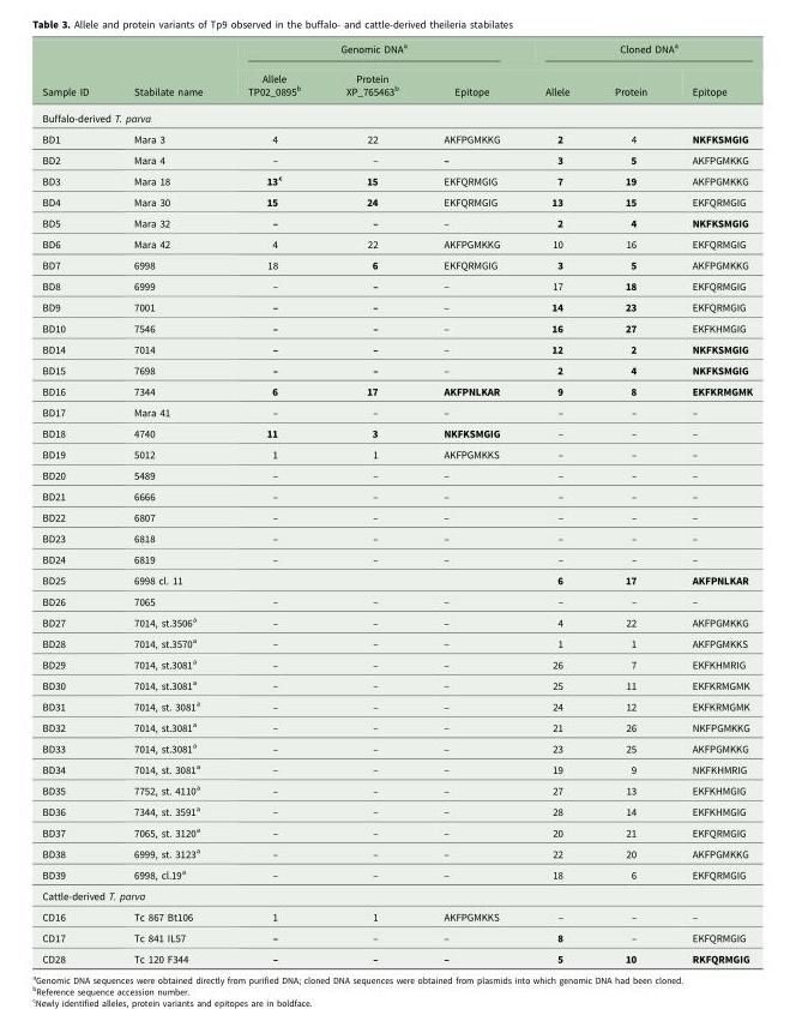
<table><thead><tr><td rowspan="2">Sample ID</td><td rowspan="2">Stabilate name</td><td colspan="3">Genomic DNA<sup>a</sup></td><td colspan="3">Cloned DNA<sup>a</sup></td></tr><tr><td>Allele TP02_0895<sup>b</sup></td><td>Protein XP_765463<sup>b</sup></td><td>Epitope</td><td>Allele</td><td>Protein</td><td>Epitope</td></tr></thead><tbody><tr><td colspan="8">Buffalo-derived T. parva</td></tr><tr><td>BD1</td><td>Mara 3</td><td>4</td><td>22</td><td>AKFPGMKKG</td><td>2</td><td>4</td><td>NKFKSMGIG</td></tr><tr><td>BD2</td><td>Mara 4</td><td>–</td><td>–</td><td>–</td><td>3</td><td>5</td><td>AKFPGMKKG</td></tr><tr><td>BD3</td><td>Mara 18</td><td>13<sup>c</sup></td><td>15</td><td>EKFQRMGIG</td><td>7</td><td>19</td><td>AKFPGMKKG</td></tr><tr><td>BD4</td><td>Mara 30</td><td>15</td><td>24</td><td>EKFQRMGIG</td><td>13</td><td>15</td><td>EKFQRMGIG</td></tr><tr><td>BD5</td><td>Mara 32</td><td>–</td><td>–</td><td>–</td><td>2</td><td>4</td><td>NKFKSMGIG</td></tr><tr><td>BD6</td><td>Mara 42</td><td>4</td><td>22</td><td>AKFPGMKKG</td><td>10</td><td>16</td><td>EKFQRMGIG</td></tr><tr><td>BD7</td><td>6998</td><td>18</td><td>6</td><td>EKFQRMGIG</td><td>3</td><td>5</td><td>AKFPGMKKG</td></tr><tr><td>BD8</td><td>6999</td><td>–</td><td>–</td><td>–</td><td>17</td><td>18</td><td>EKFQRMGIG</td></tr><tr><td>BD9</td><td>7001</td><td>–</td><td>–</td><td>–</td><td>14</td><td>23</td><td>EKFQRMGIG</td></tr><tr><td>BD10</td><td>7546</td><td>–</td><td>–</td><td>–</td><td>16</td><td>27</td><td>EKFKHMGIG</td></tr><tr><td>BD14</td><td>7014</td><td>–</td><td>–</td><td>–</td><td>12</td><td>2</td><td>NKFKSMGIG</td></tr><tr><td>BD15</td><td>7698</td><td>–</td><td>–</td><td>–</td><td>2</td><td>4</td><td>NKFKSMGIG</td></tr><tr><td>BD16</td><td>7344</td><td>6</td><td>17</td><td>AKFPNLKAR</td><td>9</td><td>8</td><td>EKFKRMGMK</td></tr><tr><td>BD17</td><td>Mara 41</td><td>–</td><td>–</td><td>–</td><td>–</td><td>–</td><td>–</td></tr><tr><td>BD18</td><td>4740</td><td>11</td><td>3</td><td>NKFKSMGIG</td><td>–</td><td>–</td><td>–</td></tr><tr><td>BD19</td><td>5012</td><td>1</td><td>1</td><td>AKFPGMKKS</td><td>–</td><td>–</td><td>–</td></tr><tr><td>BD20</td><td>5489</td><td>–</td><td>–</td><td>–</td><td>–</td><td>–</td><td>–</td></tr><tr><td>BD21</td><td>6666</td><td>–</td><td>–</td><td>–</td><td>–</td><td>–</td><td>–</td></tr><tr><td>BD22</td><td>6807</td><td>–</td><td>–</td><td>–</td><td>–</td><td>–</td><td>–</td></tr><tr><td>BD23</td><td>6818</td><td>–</td><td>–</td><td>–</td><td>–</td><td>–</td><td>–</td></tr><tr><td>BD24</td><td>6819</td><td>–</td><td>–</td><td>–</td><td>–</td><td>–</td><td>–</td></tr><tr><td>BD25</td><td>6998 cl. 11</td><td></td><td></td><td></td><td>6</td><td>17</td><td>AKFPNLKAR</td></tr><tr><td>BD26</td><td>7065</td><td>–</td><td>–</td><td>–</td><td>–</td><td>–</td><td>–</td></tr><tr><td>BD27</td><td>7014, st.3506<sup>a</sup></td><td>–</td><td>–</td><td>–</td><td>4</td><td>22</td><td>AKFPGMKKG</td></tr><tr><td>BD28</td><td>7014, st.3570<sup>a</sup></td><td>–</td><td>–</td><td>–</td><td>1</td><td>1</td><td>AKFPGMKKS</td></tr><tr><td>BD29</td><td>7014, st.3081<sup>a</sup></td><td>–</td><td>–</td><td>–</td><td>26</td><td>7</td><td>EKFKHMRIG</td></tr><tr><td>BD30</td><td>7014, st.3081<sup>a</sup></td><td>–</td><td>–</td><td>–</td><td>25</td><td>11</td><td>EKFKRMGMK</td></tr><tr><td>BD31</td><td>7014, st. 3081<sup>a</sup></td><td>–</td><td>–</td><td>–</td><td>24</td><td>12</td><td>EKFKRMGMK</td></tr><tr><td>BD32</td><td>7014, st.3081<sup>a</sup></td><td>–</td><td>–</td><td>–</td><td>21</td><td>26</td><td>NKFPGMKKG</td></tr><tr><td>BD33</td><td>7014, st.3081<sup>a</sup></td><td>–</td><td>–</td><td>–</td><td>23</td><td>25</td><td>AKFPGMKKG</td></tr><tr><td>BD34</td><td>7014, st. 3081<sup>a</sup></td><td>–</td><td>–</td><td>–</td><td>19</td><td>9</td><td>NKFKHMRIG</td></tr><tr><td>BD35</td><td>7752, st. 4110<sup>a</sup></td><td>–</td><td>–</td><td>–</td><td>27</td><td>13</td><td>EKFKHMGIG</td></tr><tr><td>BD36</td><td>7344, st. 3591<sup>a</sup></td><td>–</td><td>–</td><td>–</td><td>28</td><td>14</td><td>EKFKHMGIG</td></tr><tr><td>BD37</td><td>7065, st. 3120<sup>a</sup></td><td>–</td><td>–</td><td>–</td><td>20</td><td>21</td><td>EKFQRMGIG</td></tr><tr><td>BD38</td><td>6999, st. 3123<sup>a</sup></td><td>–</td><td>–</td><td>–</td><td>22</td><td>20</td><td>AKFPGMKKG</td></tr><tr><td>BD39</td><td>6998, cl.19<sup>a</sup></td><td>–</td><td>–</td><td>–</td><td>18</td><td>6</td><td>EKFQRMGIG</td></tr><tr><td colspan="8">Cattle-derived T. parva</td></tr><tr><td>CD16</td><td>Tc 867 Bt106</td><td>1</td><td>1</td><td>AKFPGMKKS</td><td>–</td><td>–</td><td>–</td></tr><tr><td>CD17</td><td>Tc 841 IL57</td><td>–</td><td>–</td><td>–</td><td>8</td><td>–</td><td>EKFQRMGIG</td></tr><tr><td>CD28</td><td>Tc 120 F344</td><td>–</td><td>–</td><td>–</td><td>5</td><td>10</td><td>RKFQRMGIG</td></tr></tbody></table>